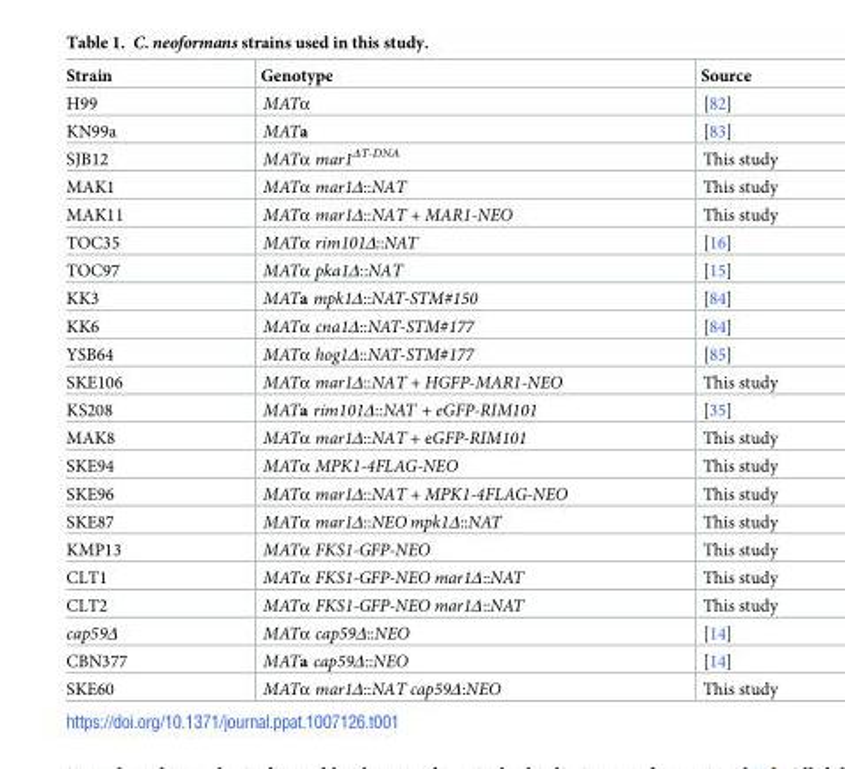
<table><thead><tr><td>Strain</td><td>Genotype</td><td>Source</td></tr></thead><tbody><tr><td>H99</td><td>MATα</td><td>[82]</td></tr><tr><td>KN99a</td><td>MATa</td><td>[83]</td></tr><tr><td>SJB12</td><td>MATα mar1<sup>ΔT-DNA</sup></td><td>This study</td></tr><tr><td>MAK1</td><td>MATα mar1Δ::NAT</td><td>This study</td></tr><tr><td>MAK11</td><td>MATα mar1Δ::NAT + MAR1-NEO</td><td>This study</td></tr><tr><td>TOC35</td><td>MATα rim101Δ::NAT</td><td>[16]</td></tr><tr><td>TOC97</td><td>MATα pka1Δ::NAT</td><td>[15]</td></tr><tr><td>KK3</td><td>MATa mpk1Δ::NAT-STM#150</td><td>[84]</td></tr><tr><td>KK6</td><td>MATα cna1Δ::NAT-STM#177</td><td>[84]</td></tr><tr><td>YSB64</td><td>MATα hog1Δ::NAT-STM#177</td><td>[85]</td></tr><tr><td>SKE106</td><td>MATα mar1Δ::NAT + HGFP-MAR1-NEO</td><td>This study</td></tr><tr><td>KS208</td><td>MATa rim101Δ::NAT + eGFP-RIM101</td><td>[35]</td></tr><tr><td>MAK8</td><td>MATα mar1Δ::NAT + eGFP-RIM101</td><td>This study</td></tr><tr><td>SKE94</td><td>MATα MPK1-4FLAG-NEO</td><td>This study</td></tr><tr><td>SKE96</td><td>MATα mar1Δ::NAT + MPK1-4FLAG-NEO</td><td>This study</td></tr><tr><td>SKE87</td><td>MATα mar1Δ::NEO mpk1Δ::NAT</td><td>This study</td></tr><tr><td>KMP13</td><td>MATα FKS1-GFP-NEO</td><td>This study</td></tr><tr><td>CLT1</td><td>MATα FKS1-GFP-NEO mar1Δ::NAT</td><td>This study</td></tr><tr><td>CLT2</td><td>MATα FKS1-GFP-NEO mar1Δ::NAT</td><td>This study</td></tr><tr><td>cap59Δ</td><td>MATα cap59Δ::NEO</td><td>[14]</td></tr><tr><td>CBN377</td><td>MATa cap59Δ::NEO</td><td>[14]</td></tr><tr><td>SKE60</td><td>MATα mar1Δ::NAT cap59Δ:NEO</td><td>This study</td></tr></tbody></table>